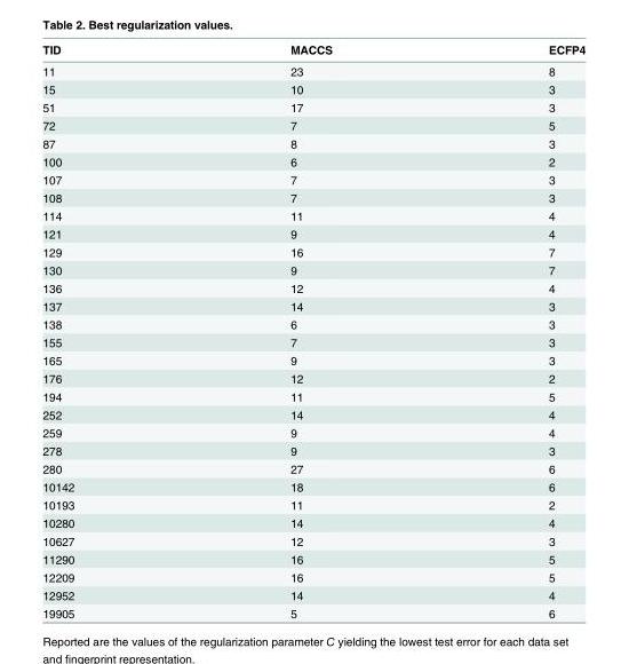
<table><thead><tr><td>TID</td><td>MACCS</td><td>ECFP4</td></tr></thead><tbody><tr><td>11</td><td>23</td><td>8</td></tr><tr><td>15</td><td>10</td><td>3</td></tr><tr><td>51</td><td>17</td><td>3</td></tr><tr><td>72</td><td>7</td><td>5</td></tr><tr><td>87</td><td>8</td><td>3</td></tr><tr><td>100</td><td>6</td><td>2</td></tr><tr><td>107</td><td>7</td><td>3</td></tr><tr><td>108</td><td>7</td><td>3</td></tr><tr><td>114</td><td>11</td><td>4</td></tr><tr><td>121</td><td>9</td><td>4</td></tr><tr><td>129</td><td>16</td><td>7</td></tr><tr><td>130</td><td>9</td><td>7</td></tr><tr><td>136</td><td>12</td><td>4</td></tr><tr><td>137</td><td>14</td><td>3</td></tr><tr><td>138</td><td>6</td><td>3</td></tr><tr><td>155</td><td>7</td><td>3</td></tr><tr><td>165</td><td>9</td><td>3</td></tr><tr><td>176</td><td>12</td><td>2</td></tr><tr><td>194</td><td>11</td><td>5</td></tr><tr><td>252</td><td>14</td><td>4</td></tr><tr><td>259</td><td>9</td><td>4</td></tr><tr><td>278</td><td>9</td><td>3</td></tr><tr><td>280</td><td>27</td><td>6</td></tr><tr><td>10142</td><td>18</td><td>6</td></tr><tr><td>10193</td><td>11</td><td>2</td></tr><tr><td>10280</td><td>14</td><td>4</td></tr><tr><td>10627</td><td>12</td><td>3</td></tr><tr><td>11290</td><td>16</td><td>5</td></tr><tr><td>12209</td><td>16</td><td>5</td></tr><tr><td>12952</td><td>14</td><td>4</td></tr><tr><td>19905</td><td>5</td><td>6</td></tr></tbody></table>